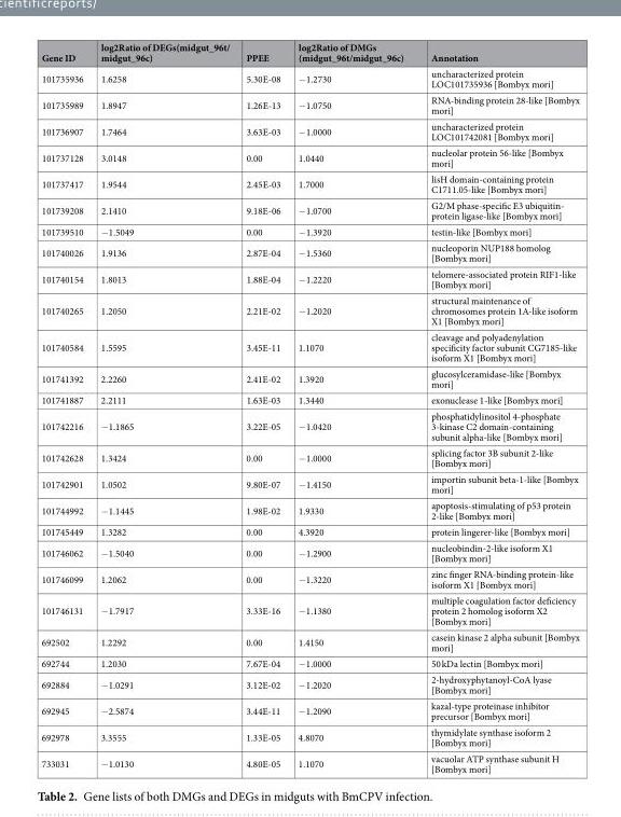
<table><thead><tr><td>Gene ID</td><td>log2Ratio of DEGs(midgut_96t/ midgut_96c)</td><td>PPEE</td><td>log2Ratio of DMGs (midgut_96t/midgut_96c)</td><td>Annotation</td></tr></thead><tbody><tr><td>101735936</td><td>1.6258</td><td>5.30E-08</td><td>−1.2730</td><td>uncharacterized protein LOC101735936 [Bombyx mori]</td></tr><tr><td>101735989</td><td>1.8947</td><td>1.26E-13</td><td>−1.0750</td><td>RNA-binding protein 28-like [Bombyx mori]</td></tr><tr><td>101736907</td><td>1.7464</td><td>3.63E-03</td><td>−1.0000</td><td>uncharacterized protein LOC101742081 [Bombyx mori]</td></tr><tr><td>101737128</td><td>3.0148</td><td>0.00</td><td>1.0440</td><td>nucleolar protein 56-like [Bombyx mori]</td></tr><tr><td>101737417</td><td>1.9544</td><td>2.45E-03</td><td>1.7000</td><td>lisH domain-containing protein C1711.05-like [Bombyx mori]</td></tr><tr><td>101739208</td><td>2.1410</td><td>9.18E-06</td><td>−1.0700</td><td>G2/M phase-specific E3 ubiquitin- protein ligase-like [Bombyx mori]</td></tr><tr><td>101739510</td><td>−1.5049</td><td>0.00</td><td>−1.3920</td><td>testin-like [Bombyx mori]</td></tr><tr><td>101740026</td><td>1.9136</td><td>2.87E-04</td><td>−1.5360</td><td>nucleoporin NUP188 homolog [Bombyx mori]</td></tr><tr><td>101740154</td><td>1.8013</td><td>1.88E-04</td><td>−1.2220</td><td>telomere-associated protein RIF1-like [Bombyx mori]</td></tr><tr><td>101740265</td><td>1.2050</td><td>2.21E-02</td><td>−1.2020</td><td>structural maintenance of chromosomes protein 1A-like isoform X1 [Bombyx mori]</td></tr><tr><td>101740584</td><td>1.5595</td><td>3.45E-11</td><td>1.1070</td><td>cleavage and polyadenylation specificity factor subunit CG7185-like isoform X1 [Bombyx mori]</td></tr><tr><td>101741392</td><td>2.2260</td><td>2.41E-02</td><td>1.3920</td><td>glucosylceramidase-like [Bombyx mori]</td></tr><tr><td>101741887</td><td>2.2111</td><td>1.63E-03</td><td>1.3440</td><td>exonuclease 1-like [Bombyx mori]</td></tr><tr><td>101742216</td><td>−1.1865</td><td>3.22E-05</td><td>−1.0420</td><td>phosphatidylinositol 4-phosphate 3-kinase C2 domain-containing subunit alpha-like [Bombyx mori]</td></tr><tr><td>101742628</td><td>1.3424</td><td>0.00</td><td>−1.0000</td><td>splicing factor 3B subunit 2-like [Bombyx mori]</td></tr><tr><td>101742901</td><td>1.0502</td><td>9.80E-07</td><td>−1.4150</td><td>importin subunit beta-1-like [Bombyx mori]</td></tr><tr><td>101744992</td><td>−1.1445</td><td>1.98E-02</td><td>1.9330</td><td>apoptosis-stimulating of p53 protein 2-like [Bombyx mori]</td></tr><tr><td>101745449</td><td>1.3282</td><td>0.00</td><td>4.3920</td><td>protein lingerer-like [Bombyx mori]</td></tr><tr><td>101746062</td><td>−1.5040</td><td>0.00</td><td>−1.2900</td><td>nucleobindin-2-like isoform X1 [Bombyx mori]</td></tr><tr><td>101746099</td><td>1.2062</td><td>0.00</td><td>−1.3220</td><td>zinc finger RNA-binding protein-like isoform X1 [Bombyx mori]</td></tr><tr><td>101746131</td><td>−1.7917</td><td>3.33E-16</td><td>−1.1380</td><td>multiple coagulation factor deficiency protein 2 homolog isoform X2 [Bombyx mori]</td></tr><tr><td>692502</td><td>1.2292</td><td>0.00</td><td>1.4150</td><td>casein kinase 2 alpha subunit [Bombyx mori]</td></tr><tr><td>692744</td><td>1.2030</td><td>7.67E-04</td><td>−1.0000</td><td>50 kDa lectin [Bombyx mori]</td></tr><tr><td>692884</td><td>−1.0291</td><td>3.12E-02</td><td>−1.2020</td><td>2-hydroxyphytanoyl-CoA lyase [Bombyx mori]</td></tr><tr><td>692945</td><td>−2.5874</td><td>3.44E-11</td><td>−1.2090</td><td>kazal-type proteinase inhibitor precursor [Bombyx mori]</td></tr><tr><td>692978</td><td>3.3555</td><td>1.33E-05</td><td>4.8070</td><td>thymidylate synthase isoform 2 [Bombyx mori]</td></tr><tr><td>733031</td><td>−1.0130</td><td>4.80E-05</td><td>1.1070</td><td>vacuolar ATP synthase subunit H [Bombyx mori]</td></tr></tbody></table>